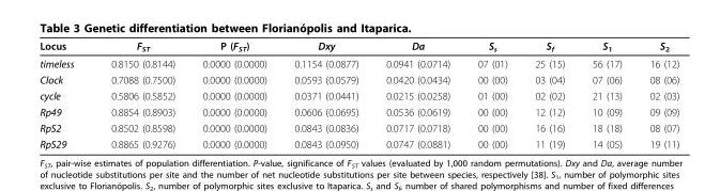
<table><thead><tr><td>Locus</td><td>F<sub>ST</sub></td><td>P (F<sub>ST</sub>)</td><td>Dxy</td><td>Da</td><td>S<sub>s</sub></td><td>S<sub>f</sub></td><td>S<sub>1</sub></td><td>S<sub>2</sub></td></tr></thead><tbody><tr><td>timeless</td><td>0.8150 (0.8144)</td><td>0.0000 (0.0000)</td><td>0.1154 (0.0877)</td><td>0.0941 (0.0714)</td><td>07 (01)</td><td>25 (15)</td><td>56 (17)</td><td>16 (12)</td></tr><tr><td>Clock</td><td>0.7088 (0.7500)</td><td>0.0000 (0.0000)</td><td>0.0593 (0.0579)</td><td>0.0420 (0.0434)</td><td>00 (00)</td><td>03 (04)</td><td>07 (06)</td><td>08 (06)</td></tr><tr><td>cycle</td><td>0.5806 (0.5852)</td><td>0.0000 (0.0000)</td><td>0.0371 (0.0441)</td><td>0.0215 (0.0258)</td><td>01 (00)</td><td>02 (02)</td><td>21 (13)</td><td>02 (03)</td></tr><tr><td>Rp49</td><td>0.8854 (0.8903)</td><td>0.0000 (0.0000)</td><td>0.0606 (0.0695)</td><td>0.0536 (0.0619)</td><td>00 (00)</td><td>12 (12)</td><td>10 (09)</td><td>09 (09)</td></tr><tr><td>RpS2</td><td>0.8502 (0.8598)</td><td>0.0000 (0.0000)</td><td>0.0843 (0.0836)</td><td>0.0717 (0.0718)</td><td>00 (00)</td><td>16 (16)</td><td>18 (18)</td><td>08 (07)</td></tr><tr><td>RpS29</td><td>0.8865 (0.9276)</td><td>0.0000 (0.0000)</td><td>0.0843 (0.0950)</td><td>0.0747 (0.0881)</td><td>00 (00)</td><td>11 (19)</td><td>14 (05)</td><td>19 (11)</td></tr></tbody></table>